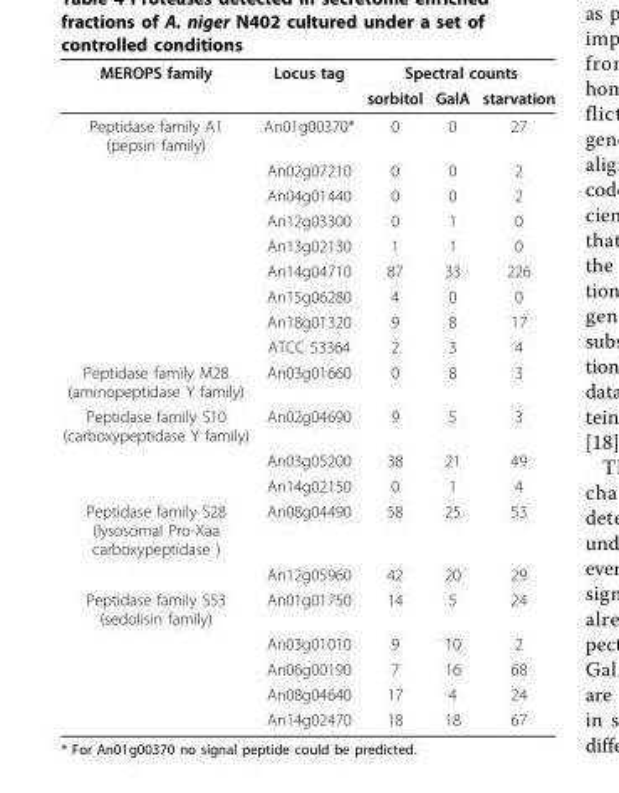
<table><thead><tr><td rowspan="2">MEROPS family</td><td rowspan="2">Locus tag</td><td colspan="3">Spectral counts</td></tr><tr><td>sorbitol</td><td>GalA</td><td>starvation</td></tr></thead><tbody><tr><td rowspan="9">Peptidase family A1 (pepsin family)</td><td>An01g00370*</td><td>0</td><td>0</td><td>27</td></tr><tr><td>An02g07210</td><td>0</td><td>0</td><td>2</td></tr><tr><td>An04g01440</td><td>0</td><td>0</td><td>2</td></tr><tr><td>An12g03300</td><td>0</td><td>1</td><td>0</td></tr><tr><td>An13g02130</td><td>1</td><td>1</td><td>0</td></tr><tr><td>An14g04710</td><td>87</td><td>33</td><td>226</td></tr><tr><td>An15g06280</td><td>4</td><td>0</td><td>0</td></tr><tr><td>An18g01320</td><td>9</td><td>8</td><td>17</td></tr><tr><td>ATCC 53364</td><td>2</td><td>3</td><td>4</td></tr><tr><td>Peptidase family M28 (aminopeptidase Y family)</td><td>An03g01660</td><td>0</td><td>8</td><td>3</td></tr><tr><td rowspan="3">Peptidase family S10 (carboxypeptidase Y family)</td><td>An02g04690</td><td>9</td><td>5</td><td>3</td></tr><tr><td>An03g05200</td><td>38</td><td>21</td><td>49</td></tr><tr><td>An14g02150</td><td>0</td><td>1</td><td>4</td></tr><tr><td rowspan="2">Peptidase family S28 (lysosomal Pro-Xaa carboxypeptidase )</td><td>An08g04490</td><td>58</td><td>25</td><td>53</td></tr><tr><td>An12g05960</td><td>42</td><td>20</td><td>29</td></tr><tr><td rowspan="5">Peptidase family S53 (sedolisin family)</td><td>An01g01750</td><td>14</td><td>5</td><td>24</td></tr><tr><td>An03g01010</td><td>9</td><td>10</td><td>2</td></tr><tr><td>An06g00190</td><td>7</td><td>16</td><td>68</td></tr><tr><td>An08g04640</td><td>17</td><td>4</td><td>24</td></tr><tr><td>An14g02470</td><td>18</td><td>18</td><td>67</td></tr></tbody></table>